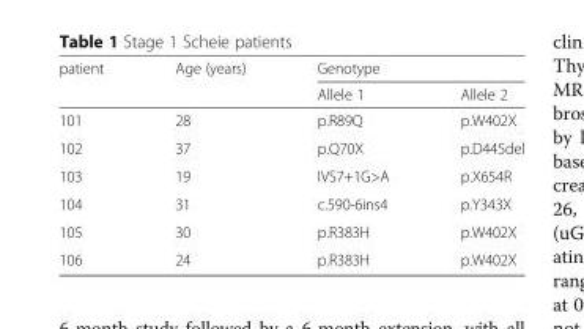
<table><thead><tr><td rowspan="2">patient</td><td rowspan="2">Age (years)</td><td colspan="2">Genotype</td></tr><tr><td>Allele 1</td><td>Allele 2</td></tr></thead><tbody><tr><td>101</td><td>28</td><td>p.R89Q</td><td>p.W402X</td></tr><tr><td>102</td><td>37</td><td>p.Q70X</td><td>p.D445del</td></tr><tr><td>103</td><td>19</td><td>IVS7+1G&gt;A</td><td>p.X654R</td></tr><tr><td>104</td><td>31</td><td>c.590-6ins4</td><td>p.Y343X</td></tr><tr><td>105</td><td>30</td><td>p.R383H</td><td>p.W402X</td></tr><tr><td>106</td><td>24</td><td>p.R383H</td><td>p.W402X</td></tr></tbody></table>